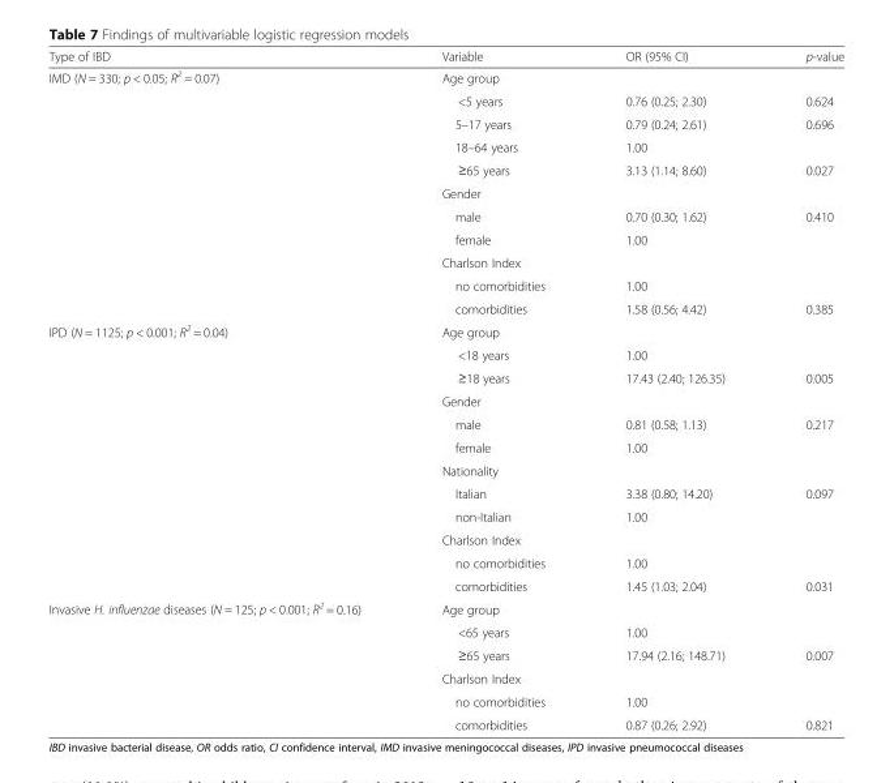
<table><thead><tr><td>Type of IBD</td><td>Variable</td><td>OR (95% CI)</td><td>p-value</td></tr></thead><tbody><tr><td rowspan="11">IMD (N = 330; p &lt; 0.05; R<sup>2</sup> = 0.07)</td><td colspan="3">Age group</td></tr><tr><td>&lt;5 years</td><td>0.76 (0.25; 2.30)</td><td>0.624</td></tr><tr><td>5–17 years</td><td>0.79 (0.24; 2.61)</td><td>0.696</td></tr><tr><td>18–64 years</td><td>1.00</td><td></td></tr><tr><td>≥65 years</td><td>3.13 (1.14; 8.60)</td><td>0.027</td></tr><tr><td colspan="3">Gender</td></tr><tr><td>male</td><td>0.70 (0.30; 1.62)</td><td>0.410</td></tr><tr><td>female</td><td>1.00</td><td></td></tr><tr><td colspan="3">Charlson Index</td></tr><tr><td>no comorbidities</td><td>1.00</td><td></td></tr><tr><td>comorbidities</td><td>1.58 (0.56; 4.42)</td><td>0.385</td></tr><tr><td rowspan="12">IPD (N = 1125; p &lt; 0.001; R<sup>2</sup> = 0.04)</td><td colspan="3">Age group</td></tr><tr><td>&lt;18 years</td><td>1.00</td><td></td></tr><tr><td>≥18 years</td><td>17.43 (2.40; 126.35)</td><td>0.005</td></tr><tr><td colspan="3">Gender</td></tr><tr><td>male</td><td>0.81 (0.58; 1.13)</td><td>0.217</td></tr><tr><td>female</td><td>1.00</td><td></td></tr><tr><td colspan="3">Nationality</td></tr><tr><td>Italian</td><td>3.38 (0.80; 14.20)</td><td>0.097</td></tr><tr><td>non-Italian</td><td>1.00</td><td></td></tr><tr><td colspan="3">Charlson Index</td></tr><tr><td>no comorbidities</td><td>1.00</td><td></td></tr><tr><td>comorbidities</td><td>1.45 (1.03; 2.04)</td><td>0.031</td></tr><tr><td rowspan="6">Invasive H. influenzae diseases (N = 125; p &lt; 0.001; R<sup>2</sup> = 0.16)</td><td colspan="3">Age group</td></tr><tr><td>&lt;65 years</td><td>1.00</td><td></td></tr><tr><td>≥65 years</td><td>17.94 (2.16; 148.71)</td><td>0.007</td></tr><tr><td colspan="3">Charlson Index</td></tr><tr><td>no comorbidities</td><td>1.00</td><td></td></tr><tr><td>comorbidities</td><td>0.87 (0.26; 2.92)</td><td>0.821</td></tr></tbody></table>